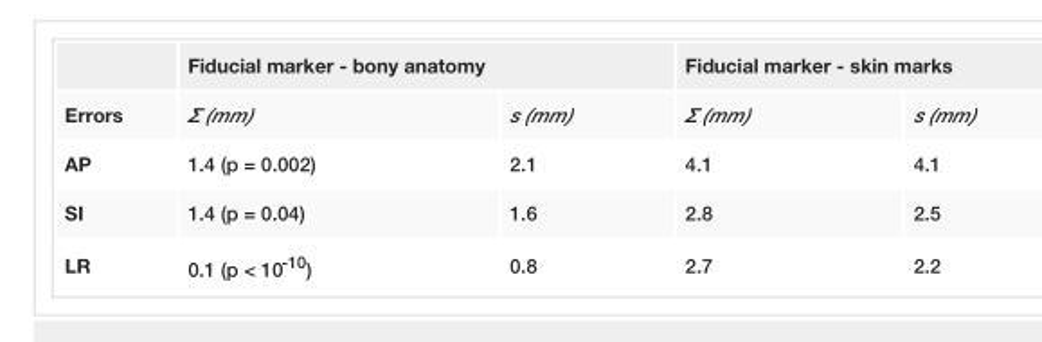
<table><thead><tr><td rowspan="2">Errors</td><td colspan="2">Fiducial marker - bony anatomy</td><td colspan="2">Fiducial marker - skin marks</td></tr><tr><td>Σ (mm)</td><td>s (mm)</td><td>Σ (mm)</td><td>s (mm)</td></tr></thead><tbody><tr><td>AP</td><td>1.4 (p = 0.002)</td><td>2.1</td><td>4.1</td><td>4.1</td></tr><tr><td>SI</td><td>1.4 (p = 0.04)</td><td>1.6</td><td>2.8</td><td>2.5</td></tr><tr><td>LR</td><td>0.1 (p &lt; 10<sup>-10</sup>)</td><td>0.8</td><td>2.7</td><td>2.2</td></tr></tbody></table>